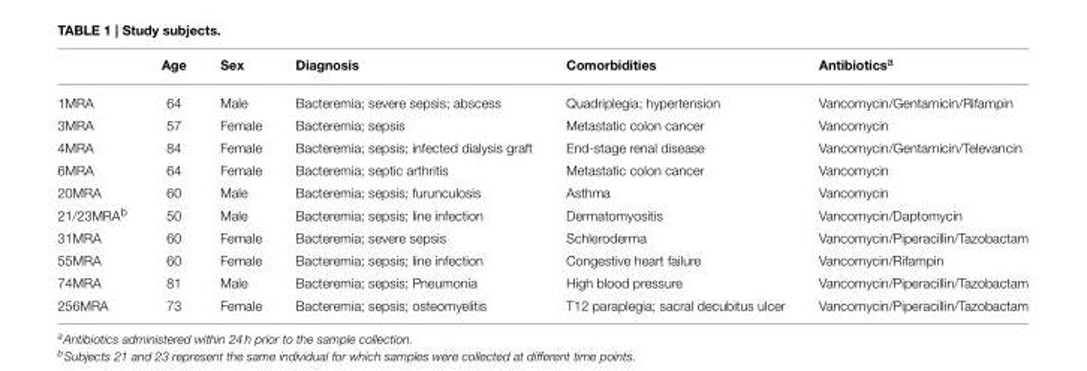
<table><thead><tr><td></td><td>Age</td><td>Sex</td><td>Diagnosis</td><td>Comorbidities</td><td>Antibiotics<sup>a</sup></td></tr></thead><tbody><tr><td>1MRA</td><td>64</td><td>Male</td><td>Bacteremia; severe sepsis; abscess</td><td>Quadriplegia; hypertension</td><td>Vancomycin/Gentamicin/Rifampin</td></tr><tr><td>3MRA</td><td>57</td><td>Female</td><td>Bacteremia; sepsis</td><td>Metastatic colon cancer</td><td>Vancomycin</td></tr><tr><td>4MRA</td><td>84</td><td>Female</td><td>Bacteremia; sepsis; infected dialysis graft</td><td>End-stage renal disease</td><td>Vancomycin/Gentamicin/Televancin</td></tr><tr><td>6MRA</td><td>64</td><td>Female</td><td>Bacteremia; septic arthritis</td><td>Metastatic colon cancer</td><td>Vancomycin</td></tr><tr><td>20MRA</td><td>60</td><td>Male</td><td>Bacteremia; sepsis; furunculosis</td><td>Asthma</td><td>Vancomycin</td></tr><tr><td>21/23MRA<sup>b</sup></td><td>50</td><td>Male</td><td>Bacteremia; sepsis; line infection</td><td>Dermatomyositis</td><td>Vancomycin/Daptomycin</td></tr><tr><td>31MRA</td><td>60</td><td>Female</td><td>Bacteremia; severe sepsis</td><td>Schleroderma</td><td>Vancomycin/Piperacillin/Tazobactam</td></tr><tr><td>55MRA</td><td>60</td><td>Female</td><td>Bacteremia; sepsis; line infection</td><td>Congestive heart failure</td><td>Vancomycin/Rifampin</td></tr><tr><td>74MRA</td><td>81</td><td>Male</td><td>Bacteremia; sepsis; Pneumonia</td><td>High blood pressure</td><td>Vancomycin/Piperacillin/Tazobactam</td></tr><tr><td>256MRA</td><td>73</td><td>Female</td><td>Bacteremia; sepsis; osteomyelitis</td><td>T12 paraplegia; sacral decubitus ulcer</td><td>Vancomycin/Piperacillin/Tazobactam</td></tr></tbody></table>